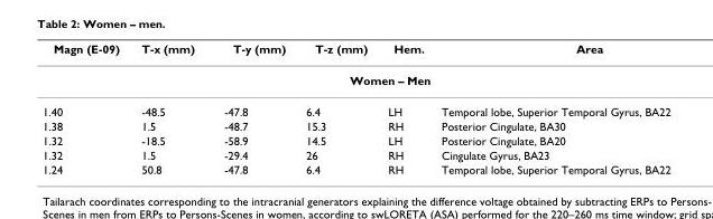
<table><thead><tr><td>Magn (E-09)</td><td>T-x (mm)</td><td>T-y (mm)</td><td>T-z (mm)</td><td>Hem.</td><td>Area</td></tr></thead><tbody><tr><td colspan="6">Women – Men</td></tr><tr><td>1.40</td><td>-48.5</td><td>-47.8</td><td>6.4</td><td>LH</td><td>Temporal lobe, Superior Temporal Gyrus, BA22</td></tr><tr><td>1.38</td><td>1.5</td><td>-48.7</td><td>15.3</td><td>RH</td><td>Posterior Cingulate, BA30</td></tr><tr><td>1.32</td><td>-18.5</td><td>-58.9</td><td>14.5</td><td>LH</td><td>Posterior Cingulate, BA20</td></tr><tr><td>1.32</td><td>1.5</td><td>-29.4</td><td>26</td><td>RH</td><td>Cingulate Gyrus, BA23</td></tr><tr><td>1.24</td><td>50.8</td><td>-47.8</td><td>6.4</td><td>RH</td><td>Temporal lobe, Superior Temporal Gyrus, BA22</td></tr></tbody></table>